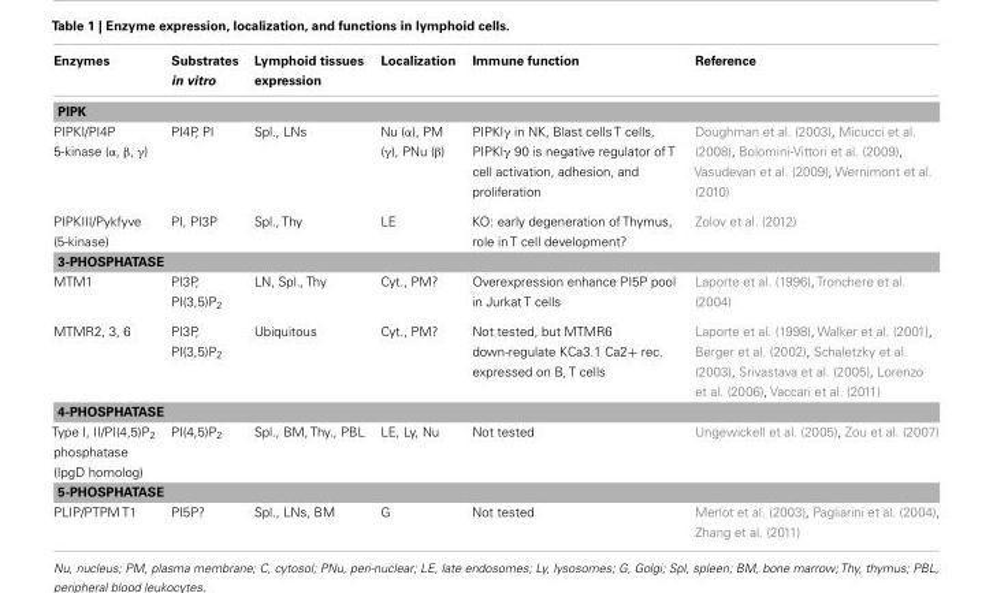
<table><thead><tr><td>Enzymes</td><td>Substrates in vitro</td><td>Lymphoid tissues expression</td><td>Localization</td><td>Immune function</td><td>Reference</td></tr></thead><tbody><tr><td colspan="6">PIPK</td></tr><tr><td>PIPKI/PI4P 5-kinase (α, β, γ)</td><td>PI4P, PI</td><td>Spl., LNs</td><td>Nu (α), PM (γ), PNu (β)</td><td>PIPKIγ in NK, Blast cells T cells, PIPKIγ 90 is negative regulator of T cell activation, adhesion, and proliferation</td><td>Doughman et al. (2003), Micucci et al. (2008), Bolomini-Vittori et al. (2009), Vasudevan et al. (2009), Wernimont et al. (2010)</td></tr><tr><td>PIPKIII/Pykfyve (5-kinase)</td><td>PI, PI3P</td><td>Spl., Thy</td><td>LE</td><td>KO: early degeneration of Thymus, role in T cell development?</td><td>Zolov et al. (2012)</td></tr><tr><td colspan="6">3-PHOSPHATASE</td></tr><tr><td>MTM1</td><td>PI3P, PI(3,5)P<sub>2</sub></td><td>LN, Spl., Thy</td><td>Cyt., PM?</td><td>Overexpression enhance PI5P pool in Jurkat T cells</td><td>Laporte et al. (1996), Tronchere et al. (2004)</td></tr><tr><td>MTMR2, 3, 6</td><td>PI3P, PI(3,5)P<sub>2</sub></td><td>Ubiquitous</td><td>Cyt., PM?</td><td>Not tested, but MTMR6 down-regulate KCa3.1 Ca2+ rec. expressed on B, T cells</td><td>Laporte et al. (1998), Walker et al. (2001), Berger et al. (2002), Schaletzky et al. (2003), Srivastava et al. (2005), Lorenzo et al. (2006), Vaccari et al. (2011)</td></tr><tr><td colspan="6">4-PHOSPHATASE</td></tr><tr><td>Type I, II/PI(4,5)P<sub>2</sub> phosphatase (IpgD homolog)</td><td>PI(4,5)P<sub>2</sub></td><td>Spl., BM, Thy., PBL</td><td>LE, Ly, Nu</td><td>Not tested</td><td>Ungewickell et al. (2005), Zou et al. (2007)</td></tr><tr><td colspan="6">5-PHOSPHATASE</td></tr><tr><td>PLIP/PTPM T1</td><td>PI5P?</td><td>Spl., LNs, BM</td><td>G</td><td>Not tested</td><td>Merlot et al. (2003), Pagliarini et al. (2004), Zhang et al. (2011)</td></tr></tbody></table>